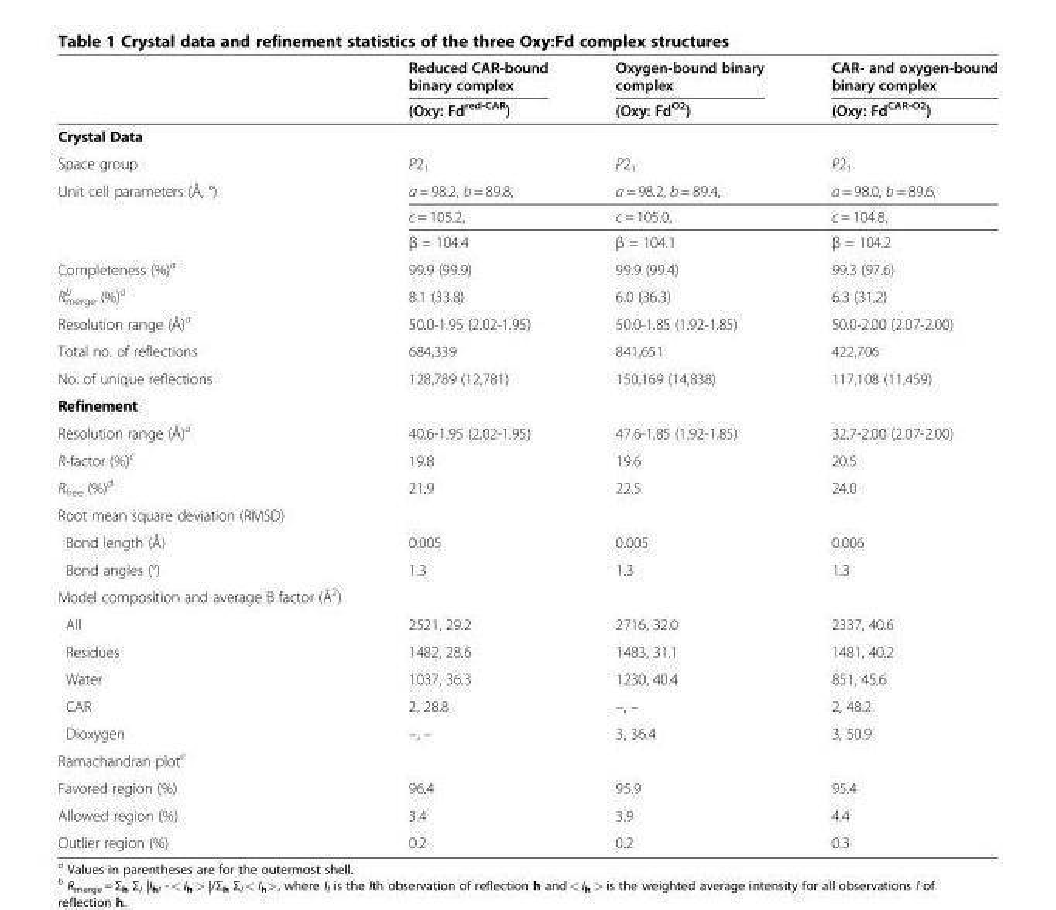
<table><thead><tr><td rowspan="2"></td><td rowspan="2">Reduced CAR-bound binary complex (Oxy: Fd<sup>red-CAR</sup>)</td><td rowspan="2">Oxygen-bound binary complex (Oxy: Fd<sup>O2</sup>)</td><td rowspan="2">CAR- and oxygen-bound binary complex (Oxy: Fd<sup>CAR-O2</sup>)</td></tr><tr></tr></thead><tbody><tr><td colspan="4">Crystal Data</td></tr><tr><td>Space group</td><td>P2<sub>1</sub></td><td>P2<sub>1</sub></td><td>P2<sub>1</sub></td></tr><tr><td rowspan="3">Unit cell parameters (Å, °)</td><td>a = 98.2, b = 89.8,</td><td>a = 98.2, b = 89.4,</td><td>a = 98.0, b = 89.6,</td></tr><tr><td>c = 105.2,</td><td>c = 105.0,</td><td>c = 104.8,</td></tr><tr><td>β = 104.4</td><td>β = 104.1</td><td>β = 104.2</td></tr><tr><td>Completeness (%)<sup>a</sup></td><td>99.9 (99.9)</td><td>99.9 (99.4)</td><td>99.3 (97.6)</td></tr><tr><td>R<sub>merge</sub> <sup>b</sup> (%)<sup>a</sup></td><td>8.1 (33.8)</td><td>6.0 (36.3)</td><td>6.3 (31.2)</td></tr><tr><td>Resolution range (Å)<sup>a</sup></td><td>50.0-1.95 (2.02-1.95)</td><td>50.0-1.85 (1.92-1.85)</td><td>50.0-2.00 (2.07-2.00)</td></tr><tr><td>Total no. of reflections</td><td>684,339</td><td>841,651</td><td>422,706</td></tr><tr><td>No. of unique reflections</td><td>128,789 (12,781)</td><td>150,169 (14,838)</td><td>117,108 (11,459)</td></tr><tr><td colspan="4">Refinement</td></tr><tr><td>Resolution range (Å)<sup>a</sup></td><td>40.6-1.95 (2.02-1.95)</td><td>47.6-1.85 (1.92-1.85)</td><td>32.7-2.00 (2.07-2.00)</td></tr><tr><td>R-factor (%)<sup>c</sup></td><td>19.8</td><td>19.6</td><td>20.5</td></tr><tr><td>R<sub>free</sub> (%)<sup>d</sup></td><td>21.9</td><td>22.5</td><td>24.0</td></tr><tr><td colspan="4">Root mean square deviation (RMSD)</td></tr><tr><td>Bond length (Å)</td><td>0.005</td><td>0.005</td><td>0.006</td></tr><tr><td>Bond angles (°)</td><td>1.3</td><td>1.3</td><td>1.3</td></tr><tr><td colspan="4">Model composition and average B factor (Å<sup>2</sup>)</td></tr><tr><td>All</td><td>2521, 29.2</td><td>2716, 32.0</td><td>2337, 40.6</td></tr><tr><td>Residues</td><td>1482, 28.6</td><td>1483, 31.1</td><td>1481, 40.2</td></tr><tr><td>Water</td><td>1037, 36.3</td><td>1230, 40.4</td><td>851, 45.6</td></tr><tr><td>CAR</td><td>2, 28.8</td><td>–, –</td><td>2, 48.2</td></tr><tr><td>Dioxygen</td><td>–, –</td><td>3, 36.4</td><td>3, 50.9</td></tr><tr><td colspan="4">Ramachandran plot<sup>e</sup></td></tr><tr><td>Favored region (%)</td><td>96.4</td><td>95.9</td><td>95.4</td></tr><tr><td>Allowed region (%)</td><td>3.4</td><td>3.9</td><td>4.4</td></tr><tr><td>Outlier region (%)</td><td>0.2</td><td>0.2</td><td>0.3</td></tr></tbody></table>